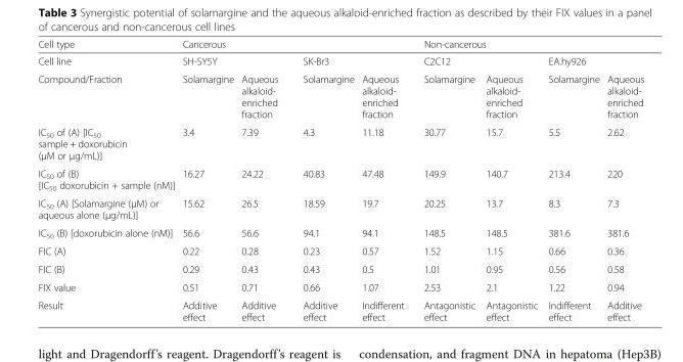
<table><thead><tr><td rowspan="3">Cell type Cell line Compound/Fraction</td><td colspan="4">Cancerous</td><td colspan="4">Non-cancerous</td></tr><tr><td colspan="2">SH-SY5Y</td><td colspan="2">SK-Br3</td><td colspan="2">C2C12</td><td colspan="2">EA.hy926</td></tr><tr><td>Solamargine</td><td>Aqueous alkaloid- enriched fraction</td><td>Solamargine</td><td>Aqueous alkaloid- enriched fraction</td><td>Solamargine</td><td>Aqueous alkaloid- enriched fraction</td><td>Solamargine</td><td>Aqueous alkaloid- enriched fraction</td></tr></thead><tbody><tr><td>IC<sub>50</sub> of (A) [IC<sub>50</sub> sample + doxorubicin (μM or μg/mL)]</td><td>3.4</td><td>7.39</td><td>4.3</td><td>11.18</td><td>30.77</td><td>15.7</td><td>5.5</td><td>2.62</td></tr><tr><td>IC<sub>50</sub> of (B) [IC<sub>50</sub> doxorubicin + sample (nM)]</td><td>16.27</td><td>24.22</td><td>40.83</td><td>47.48</td><td>149.9</td><td>140.7</td><td>213.4</td><td>220</td></tr><tr><td>IC<sub>50</sub> (A) [Solamargine (μM) or aqueous alone (μg/mL)]</td><td>15.62</td><td>26.5</td><td>18.59</td><td>19.7</td><td>20.25</td><td>13.7</td><td>8.3</td><td>7.3</td></tr><tr><td>IC<sub>50</sub> (B) [doxorubicin alone (nM)]</td><td>56.6</td><td>56.6</td><td>94.1</td><td>94.1</td><td>148.5</td><td>148.5</td><td>381.6</td><td>381.6</td></tr><tr><td>FIC (A)</td><td>0.22</td><td>0.28</td><td>0.23</td><td>0.57</td><td>1.52</td><td>1.15</td><td>0.66</td><td>0.36</td></tr><tr><td>FIC (B)</td><td>0.29</td><td>0.43</td><td>0.43</td><td>0.5</td><td>1.01</td><td>0.95</td><td>0.56</td><td>0.58</td></tr><tr><td>FIX value</td><td>0.51</td><td>0.71</td><td>0.66</td><td>1.07</td><td>2.53</td><td>2.1</td><td>1.22</td><td>0.94</td></tr><tr><td>Result</td><td>Additive effect</td><td>Additive effect</td><td>Additive effect</td><td>Indifferent effect</td><td>Antagonistic effect</td><td>Antagonistic effect</td><td>Indifferent effect</td><td>Additive effect</td></tr></tbody></table>